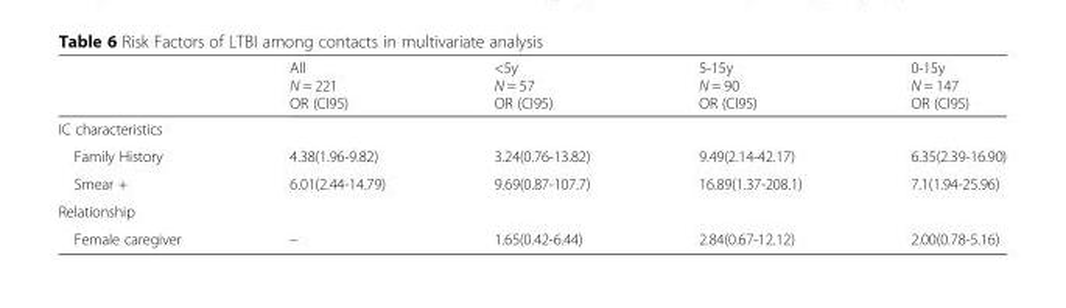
<table><thead><tr><td></td><td>All N = 221 OR (CI95)</td><td>&lt;5y N = 57 OR (CI95)</td><td>5-15y N = 90 OR (CI95)</td><td>0-15y N = 147 OR (CI95)</td></tr></thead><tbody><tr><td colspan="5">IC characteristics</td></tr><tr><td>Family History</td><td>4.38(1.96-9.82)</td><td>3.24(0.76-13.82)</td><td>9.49(2.14-42.17)</td><td>6.35(2.39-16.90)</td></tr><tr><td>Smear +</td><td>6.01(2.44-14.79)</td><td>9.69(0.87-107.7)</td><td>16.89(1.37-208.1)</td><td>7.1(1.94-25.96)</td></tr><tr><td colspan="5">Relationship</td></tr><tr><td>Female caregiver</td><td>–</td><td>1.65(0.42-6.44)</td><td>2.84(0.67-12.12)</td><td>2.00(0.78-5.16)</td></tr></tbody></table>